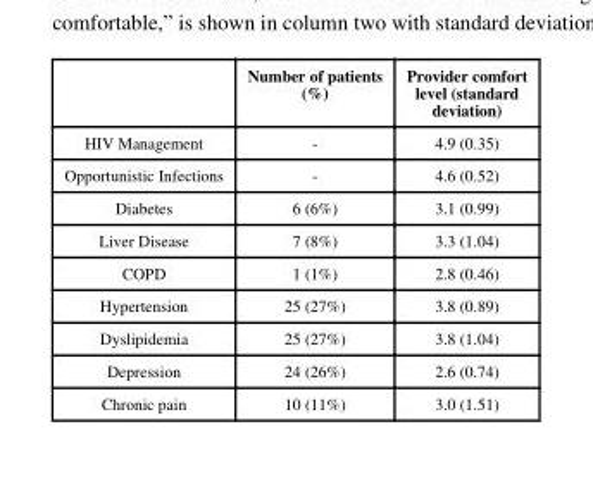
<table><thead><tr><td></td><td>Number of patients (%)</td><td>Provider comfort level (standard deviation)</td></tr></thead><tbody><tr><td>HIV Management</td><td>-</td><td>4.9 (0.35)</td></tr><tr><td>Opportunistic Infections</td><td>-</td><td>4.6 (0.52)</td></tr><tr><td>Diabetes</td><td>6 (6%)</td><td>3.1 (0.99)</td></tr><tr><td>Liver Disease</td><td>7 (8%)</td><td>3.3 (1.04)</td></tr><tr><td>COPD</td><td>1 (1%)</td><td>2.8 (0.46)</td></tr><tr><td>Hypertension</td><td>25 (27%)</td><td>3.8 (0.89)</td></tr><tr><td>Dyslipidemia</td><td>25 (27%)</td><td>3.8 (1.04)</td></tr><tr><td>Depression</td><td>24 (26%)</td><td>2.6 (0.74)</td></tr><tr><td>Chronic pain</td><td>10 (11%)</td><td>3.0 (1.51)</td></tr></tbody></table>